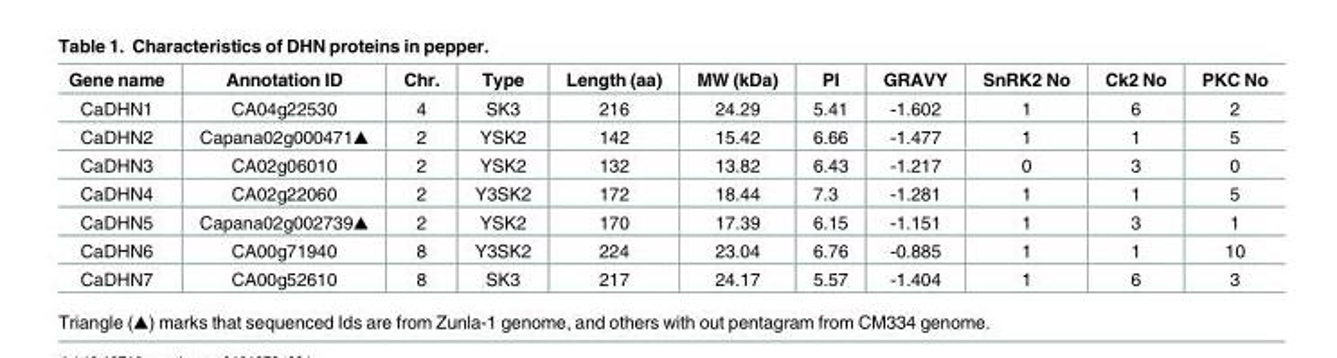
<table><thead><tr><td>Gene name</td><td>Annotation ID</td><td>Chr.</td><td>Type</td><td>Length (aa)</td><td>MW (kDa)</td><td>PI</td><td>GRAVY</td><td>SnRK2 No</td><td>Ck2 No</td><td>PKC No</td></tr></thead><tbody><tr><td>CaDHN1</td><td>CA04g22530</td><td>4</td><td>SK3</td><td>216</td><td>24.29</td><td>5.41</td><td>-1.602</td><td>1</td><td>6</td><td>2</td></tr><tr><td>CaDHN2</td><td>Capana02g000471▲</td><td>2</td><td>YSK2</td><td>142</td><td>15.42</td><td>6.66</td><td>-1.477</td><td>1</td><td>1</td><td>5</td></tr><tr><td>CaDHN3</td><td>CA02g06010</td><td>2</td><td>YSK2</td><td>132</td><td>13.82</td><td>6.43</td><td>-1.217</td><td>0</td><td>3</td><td>0</td></tr><tr><td>CaDHN4</td><td>CA02g22060</td><td>2</td><td>Y3SK2</td><td>172</td><td>18.44</td><td>7.3</td><td>-1.281</td><td>1</td><td>1</td><td>5</td></tr><tr><td>CaDHN5</td><td>Capana02g002739▲</td><td>2</td><td>YSK2</td><td>170</td><td>17.39</td><td>6.15</td><td>-1.151</td><td>1</td><td>3</td><td>1</td></tr><tr><td>CaDHN6</td><td>CA00g71940</td><td>8</td><td>Y3SK2</td><td>224</td><td>23.04</td><td>6.76</td><td>-0.885</td><td>1</td><td>1</td><td>10</td></tr><tr><td>CaDHN7</td><td>CA00g52610</td><td>8</td><td>SK3</td><td>217</td><td>24.17</td><td>5.57</td><td>-1.404</td><td>1</td><td>6</td><td>3</td></tr></tbody></table>